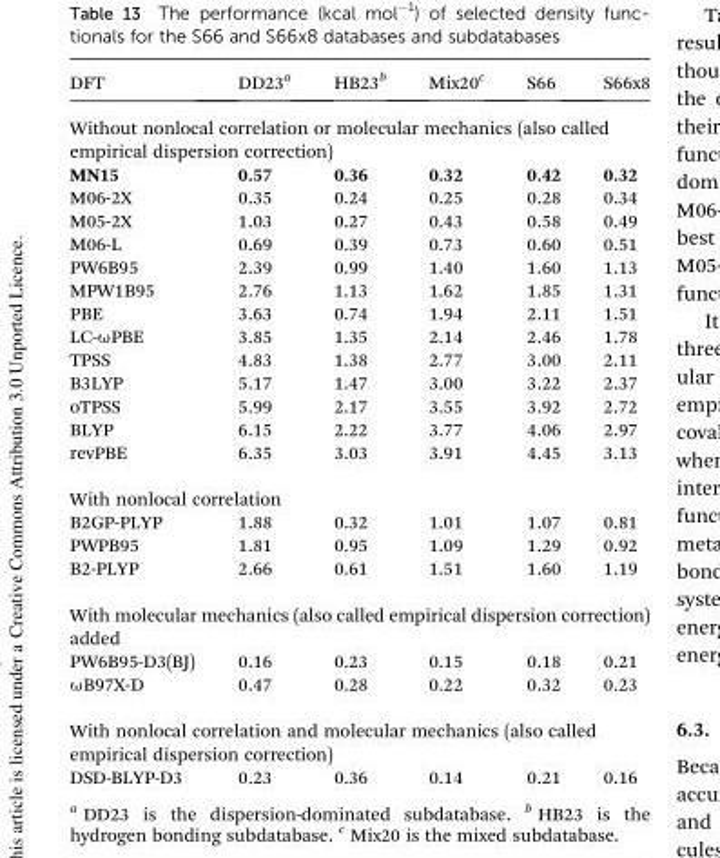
<table><thead><tr><td>DFT</td><td>DD23<sup>a</sup></td><td>HB23<sup>b</sup></td><td>Mix20<sup>c</sup></td><td>S66</td><td>S66x8</td></tr></thead><tbody><tr><td colspan="6">Without nonlocal correlation or molecular mechanics (also called empirical dispersion correction)</td></tr><tr><td>MN15</td><td>0.57</td><td>0.36</td><td>0.32</td><td>0.42</td><td>0.32</td></tr><tr><td>M06-2X</td><td>0.35</td><td>0.24</td><td>0.25</td><td>0.28</td><td>0.34</td></tr><tr><td>M05-2X</td><td>1.03</td><td>0.27</td><td>0.43</td><td>0.58</td><td>0.49</td></tr><tr><td>M06-L</td><td>0.69</td><td>0.39</td><td>0.73</td><td>0.60</td><td>0.51</td></tr><tr><td>PW6B95</td><td>2.39</td><td>0.99</td><td>1.40</td><td>1.60</td><td>1.13</td></tr><tr><td>MPW1B95</td><td>2.76</td><td>1.13</td><td>1.62</td><td>1.85</td><td>1.31</td></tr><tr><td>PBE</td><td>3.63</td><td>0.74</td><td>1.94</td><td>2.11</td><td>1.51</td></tr><tr><td>LC-ωPBE</td><td>3.85</td><td>1.35</td><td>2.14</td><td>2.46</td><td>1.78</td></tr><tr><td>TPSS</td><td>4.83</td><td>1.38</td><td>2.77</td><td>3.00</td><td>2.11</td></tr><tr><td>B3LYP</td><td>5.17</td><td>1.47</td><td>3.00</td><td>3.22</td><td>2.37</td></tr><tr><td>oTPSS</td><td>5.99</td><td>2.17</td><td>3.55</td><td>3.92</td><td>2.72</td></tr><tr><td>BLYP</td><td>6.15</td><td>2.22</td><td>3.77</td><td>4.06</td><td>2.97</td></tr><tr><td>revPBE</td><td>6.35</td><td>3.03</td><td>3.91</td><td>4.45</td><td>3.13</td></tr><tr><td colspan="6">With nonlocal correlation</td></tr><tr><td>B2GP-PLYP</td><td>1.88</td><td>0.32</td><td>1.01</td><td>1.07</td><td>0.81</td></tr><tr><td>PWPB95</td><td>1.81</td><td>0.95</td><td>1.09</td><td>1.29</td><td>0.92</td></tr><tr><td>B2-PLYP</td><td>2.66</td><td>0.61</td><td>1.51</td><td>1.60</td><td>1.19</td></tr><tr><td colspan="6">With molecular mechanics (also called empirical dispersion correction) added</td></tr><tr><td>PW6B95-D3(BJ)</td><td>0.16</td><td>0.23</td><td>0.15</td><td>0.18</td><td>0.21</td></tr><tr><td>ωB97X-D</td><td>0.47</td><td>0.28</td><td>0.22</td><td>0.32</td><td>0.23</td></tr><tr><td colspan="6">With nonlocal correlation and molecular mechanics (also called empirical dispersion correction)</td></tr><tr><td>DSD-BLYP-D3</td><td>0.23</td><td>0.36</td><td>0.14</td><td>0.21</td><td>0.16</td></tr></tbody></table>